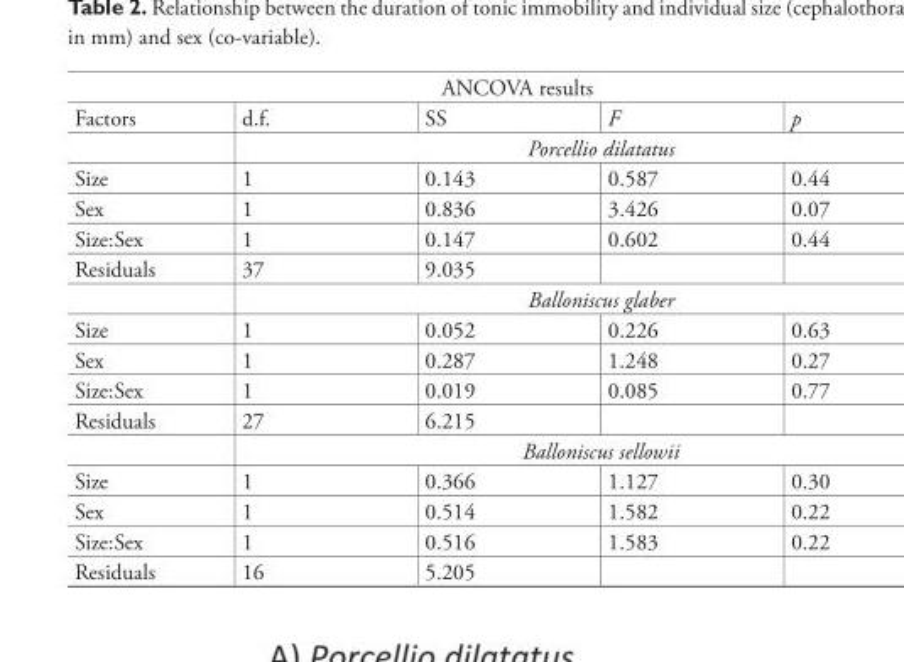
<table><thead><tr><td colspan="5">ANCOVA results</td></tr><tr><td>Factors</td><td>d.f.</td><td>SS</td><td>F</td><td>p</td></tr></thead><tbody><tr><td></td><td colspan="4">Porcellio dilatatus</td></tr><tr><td>Size</td><td>1</td><td>0.143</td><td>0.587</td><td>0.44</td></tr><tr><td>Sex</td><td>1</td><td>0.836</td><td>3.426</td><td>0.07</td></tr><tr><td>Size:Sex</td><td>1</td><td>0.147</td><td>0.602</td><td>0.44</td></tr><tr><td rowspan="2">Residuals</td><td>37</td><td>9.035</td><td></td><td></td></tr><tr><td colspan="4">Balloniscus glaber</td></tr><tr><td>Size</td><td>1</td><td>0.052</td><td>0.226</td><td>0.63</td></tr><tr><td>Sex</td><td>1</td><td>0.287</td><td>1.248</td><td>0.27</td></tr><tr><td>Size:Sex</td><td>1</td><td>0.019</td><td>0.085</td><td>0.77</td></tr><tr><td rowspan="2">Residuals</td><td>27</td><td>6.215</td><td></td><td></td></tr><tr><td colspan="4">Balloniscus sellowii</td></tr><tr><td>Size</td><td>1</td><td>0.366</td><td>1.127</td><td>0.30</td></tr><tr><td>Sex</td><td>1</td><td>0.514</td><td>1.582</td><td>0.22</td></tr><tr><td>Size:Sex</td><td>1</td><td>0.516</td><td>1.583</td><td>0.22</td></tr><tr><td>Residuals</td><td>16</td><td>5.205</td><td></td><td></td></tr></tbody></table>